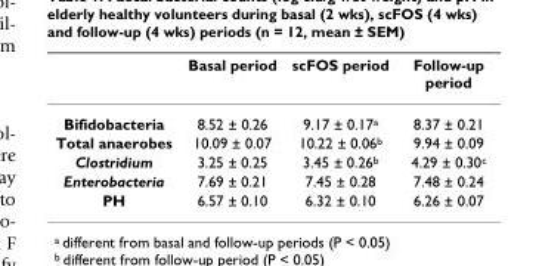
<table><thead><tr><td></td><td>Basal period</td><td>scFOS period</td><td>Follow-up period</td></tr></thead><tbody><tr><td>Bifidobacteria</td><td>8.52 ± 0.26</td><td>9.17 ± 0.17<sup>a</sup></td><td>8.37 ± 0.21</td></tr><tr><td>Total anaerobes</td><td>10.09 ± 0.07</td><td>10.22 ± 0.06<sup>b</sup></td><td>9.94 ± 0.09</td></tr><tr><td>Clostridium</td><td>3.25 ± 0.25</td><td>3.45 ± 0.26<sup>b</sup></td><td>4.29 ± 0.30<sup>c</sup></td></tr><tr><td>Enterobacteria</td><td>7.69 ± 0.21</td><td>7.45 ± 0.28</td><td>7.48 ± 0.24</td></tr><tr><td>PH</td><td>6.57 ± 0.10</td><td>6.32 ± 0.10</td><td>6.26 ± 0.07</td></tr></tbody></table>